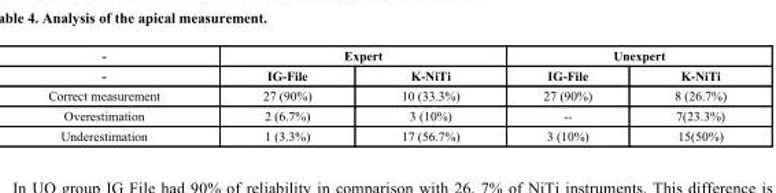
<table><thead><tr><td rowspan="2">- -</td><td colspan="2">Expert</td><td colspan="2">Unexpert</td></tr><tr><td>IG-File</td><td>K-NiTi</td><td>IG-File</td><td>K-NiTi</td></tr></thead><tbody><tr><td>Correct measurement</td><td>27 (90%)</td><td>10 (33.3%)</td><td>27 (90%)</td><td>8 (26.7%)</td></tr><tr><td>Overestimation</td><td>2 (6.7%)</td><td>3 (10%)</td><td>--</td><td>7(23.3%)</td></tr><tr><td>Underestimation</td><td>1 (3.3%)</td><td>17 (56.7%)</td><td>3 (10%)</td><td>15(50%)</td></tr></tbody></table>